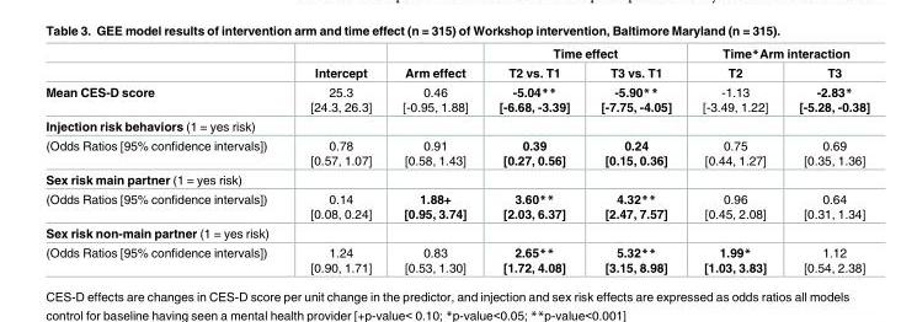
<table><thead><tr><td rowspan="2"></td><td rowspan="2">Intercept</td><td rowspan="2">Arm effect</td><td colspan="2">Time effect</td><td colspan="2">Time*Arm interaction</td></tr><tr><td>T2 vs. T1</td><td>T3 vs. T1</td><td>T2</td><td>T3</td></tr></thead><tbody><tr><td>Mean CES-D score</td><td>25.3 [24.3, 26.3]</td><td>0.46 [-0.95, 1.88]</td><td>-5.04** [-6.68, -3.39]</td><td>-5.90** [-7.75, -4.05]</td><td>-1.13 [-3.49, 1.22]</td><td>-2.83* [-5.28, -0.38]</td></tr><tr><td colspan="7">Injection risk behaviors (1 = yes risk)</td></tr><tr><td>(Odds Ratios [95% confidence intervals])</td><td>0.78 [0.57, 1.07]</td><td>0.91 [0.58, 1.43]</td><td>0.39 [0.27, 0.56]</td><td>0.24 [0.15, 0.36]</td><td>0.75 [0.44, 1.27]</td><td>0.69 [0.35, 1.36]</td></tr><tr><td colspan="7">Sex risk main partner (1 = yes risk)</td></tr><tr><td>(Odds Ratios [95% confidence intervals])</td><td>0.14 [0.08, 0.24]</td><td>1.88+ [0.95, 3.74]</td><td>3.60** [2.03, 6.37]</td><td>4.32** [2.47, 7.57]</td><td>0.96 [0.45, 2.08]</td><td>0.64 [0.31, 1.34]</td></tr><tr><td colspan="7">Sex risk non-main partner (1 = yes risk)</td></tr><tr><td>(Odds Ratios [95% confidence intervals])</td><td>1.24 [0.90, 1.71]</td><td>0.83 [0.53, 1.30]</td><td>2.65** [1.72, 4.08]</td><td>5.32** [3.15, 8.98]</td><td>1.99* [1.03, 3.83]</td><td>1.12 [0.54, 2.38]</td></tr></tbody></table>